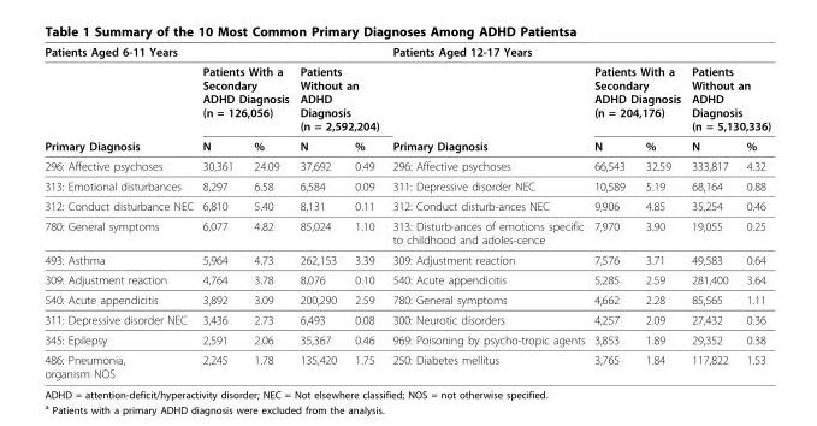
<table><thead><tr><td colspan="5">Patients Aged 6-11 Years</td><td colspan="5">Patients Aged 12-17 Years</td></tr><tr><td rowspan="2">Primary Diagnosis</td><td colspan="2">Patients With a Secondary ADHD Diagnosis (n = 126,056)</td><td colspan="2">Patients Without an ADHD Diagnosis (n = 2,592,204)</td><td rowspan="2">Primary Diagnosis</td><td colspan="2">Patients With a Secondary ADHD Diagnosis (n = 204,176)</td><td colspan="2">Patients Without an ADHD Diagnosis (n = 5,130,336)</td></tr><tr><td>N</td><td>%</td><td>N</td><td>%</td><td>N</td><td>%</td><td>N</td><td>%</td></tr></thead><tbody><tr><td>296: Affective psychoses</td><td>30,361</td><td>24.09</td><td>37,692</td><td>0.49</td><td>296: Affective psychoses</td><td>66,543</td><td>32.59</td><td>333,817</td><td>4.32</td></tr><tr><td>313: Emotional disturbances</td><td>8,297</td><td>6.58</td><td>6,584</td><td>0.09</td><td>311: Depressive disorder NEC</td><td>10,589</td><td>5.19</td><td>68,164</td><td>0.88</td></tr><tr><td>312: Conduct disturbance NEC</td><td>6,810</td><td>5.40</td><td>8,131</td><td>0.11</td><td>312: Conduct disturb-ances NEC</td><td>9,906</td><td>4.85</td><td>35,254</td><td>0.46</td></tr><tr><td>780: General symptoms</td><td>6,077</td><td>4.82</td><td>85,024</td><td>1.10</td><td>313: Disturb-ances of emotions specific to childhood and adoles-cence</td><td>7,970</td><td>3.90</td><td>19,055</td><td>0.25</td></tr><tr><td>493: Asthma</td><td>5,964</td><td>4.73</td><td>262,153</td><td>3.39</td><td>309: Adjustment reaction</td><td>7,576</td><td>3.71</td><td>49,583</td><td>0.64</td></tr><tr><td>309: Adjustment reaction</td><td>4,764</td><td>3.78</td><td>8,076</td><td>0.10</td><td>540: Acute appendicitis</td><td>5,285</td><td>2.59</td><td>281,400</td><td>3.64</td></tr><tr><td>540: Acute appendicitis</td><td>3,892</td><td>3.09</td><td>200,290</td><td>2.59</td><td>780: General symptoms</td><td>4,662</td><td>2.28</td><td>85,565</td><td>1.11</td></tr><tr><td>311: Depressive disorder NEC</td><td>3,436</td><td>2.73</td><td>6,493</td><td>0.08</td><td>300: Neurotic disorders</td><td>4,257</td><td>2.09</td><td>27,432</td><td>0.36</td></tr><tr><td>345: Epilepsy</td><td>2,591</td><td>2.06</td><td>35,367</td><td>0.46</td><td>969: Poisoning by psycho-tropic agents</td><td>3,853</td><td>1.89</td><td>29,352</td><td>0.38</td></tr><tr><td>486: Pneumonia, organism NOS</td><td>2,245</td><td>1.78</td><td>135,420</td><td>1.75</td><td>250: Diabetes mellitus</td><td>3,765</td><td>1.84</td><td>117,822</td><td>1.53</td></tr></tbody></table>